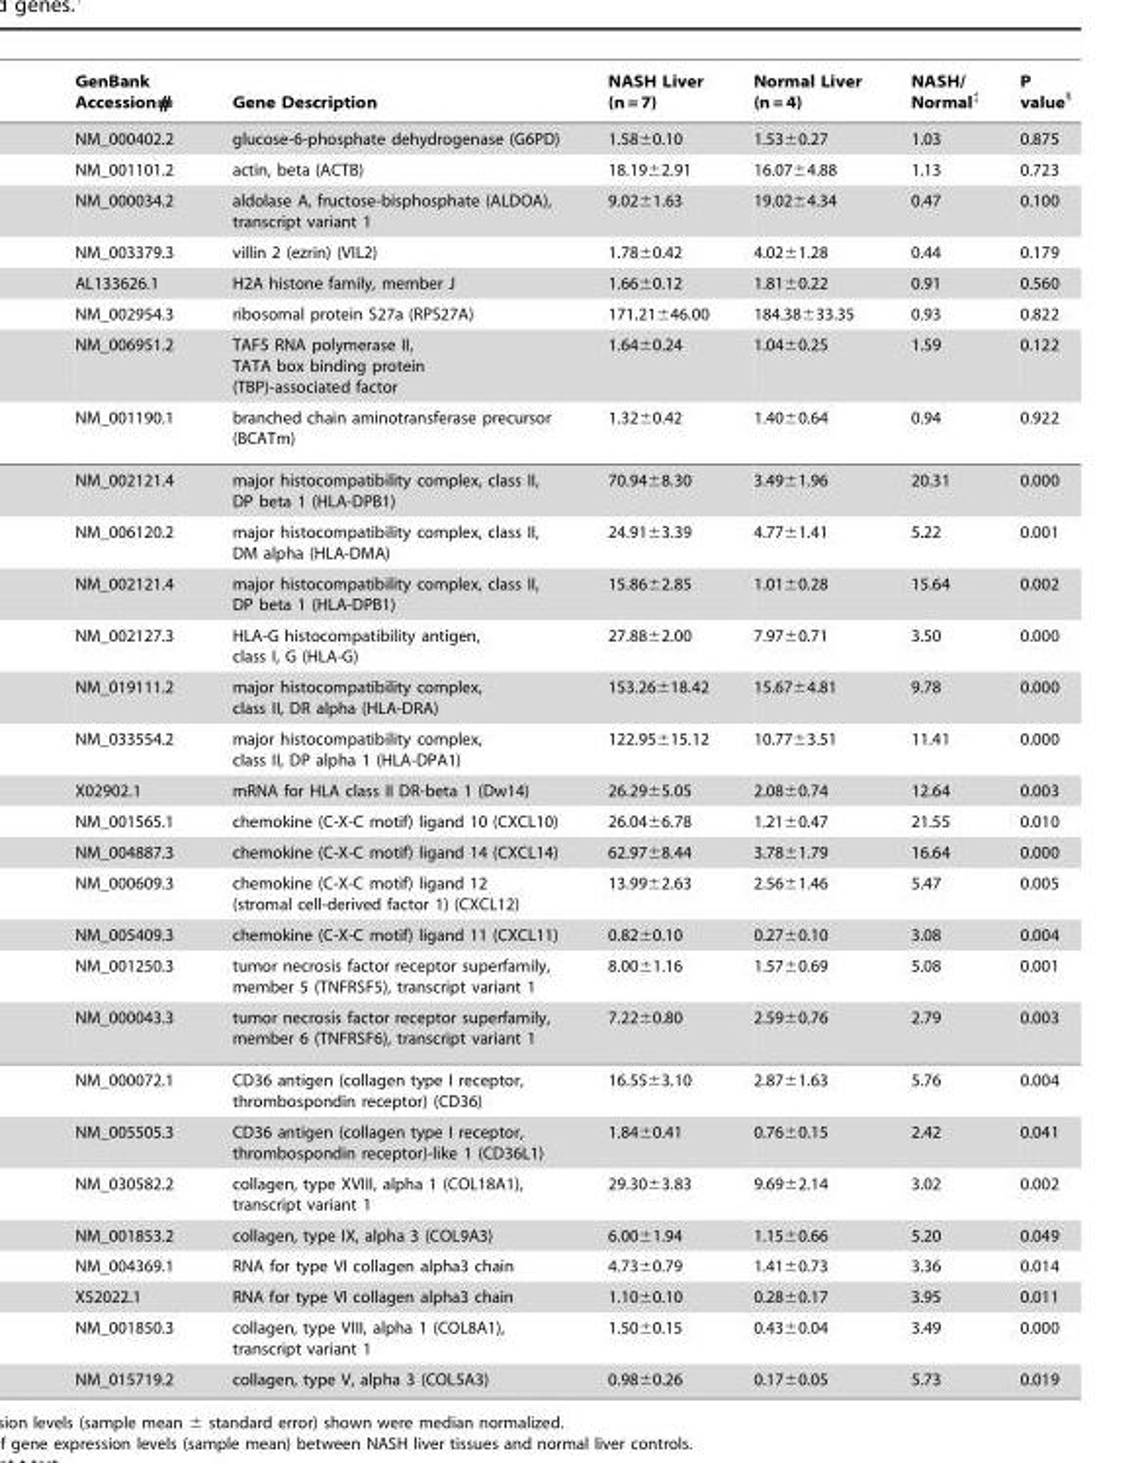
<table><thead><tr><td>GenBank Accession#</td><td>Gene Description</td><td>NASH Liver (n = 7)</td><td>Normal Liver (n = 4)</td><td>NASH/ Normal‡</td><td>P value§</td></tr></thead><tbody><tr><td>NM_000402.2</td><td>glucose-6-phosphate dehydrogenase (G6PD)</td><td>1.58±0.10</td><td>1.53±0.27</td><td>1.03</td><td>0.875</td></tr><tr><td>NM_001101.2</td><td>actin, beta (ACTB)</td><td>18.19±2.91</td><td>16.07±4.88</td><td>1.13</td><td>0.723</td></tr><tr><td>NM_000034.2</td><td>aldolase A, fructose-bisphosphate (ALDOA), transcript variant 1</td><td>9.02±1.63</td><td>19.02±4.34</td><td>0.47</td><td>0.100</td></tr><tr><td>NM_003379.3</td><td>villin 2 (ezrin) (VIL2)</td><td>1.78±0.42</td><td>4.02±1.28</td><td>0.44</td><td>0.179</td></tr><tr><td>AL133626.1</td><td>H2A histone family, member J</td><td>1.66±0.12</td><td>1.81±0.22</td><td>0.91</td><td>0.560</td></tr><tr><td>NM_002954.3</td><td>ribosomal protein S27a (RPS27A)</td><td>171.21±46.00</td><td>184.38±33.35</td><td>0.93</td><td>0.822</td></tr><tr><td>NM_006951.2</td><td>TAF5 RNA polymerase II, TATA box binding protein (TBP)-associated factor</td><td>1.64±0.24</td><td>1.04±0.25</td><td>1.59</td><td>0.122</td></tr><tr><td>NM_001190.1</td><td>branched chain aminotransferase precursor (BCATm)</td><td>1.32±0.42</td><td>1.40±0.64</td><td>0.94</td><td>0.922</td></tr><tr><td>NM_002121.4</td><td>major histocompatibility complex, class II, DP beta 1 (HLA-DPB1)</td><td>70.94±8.30</td><td>3.49±1.96</td><td>20.31</td><td>0.000</td></tr><tr><td>NM_006120.2</td><td>major histocompatibility complex, class II, DM alpha (HLA-DMA)</td><td>24.91±3.39</td><td>4.77±1.41</td><td>5.22</td><td>0.001</td></tr><tr><td>NM_002121.4</td><td>major histocompatibility complex, class II, DP beta 1 (HLA-DPB1)</td><td>15.86±2.85</td><td>1.01±0.28</td><td>15.64</td><td>0.002</td></tr><tr><td>NM_002127.3</td><td>HLA-G histocompatibility antigen, class I, G (HLA-G)</td><td>27.88±2.00</td><td>7.97±0.71</td><td>3.50</td><td>0.000</td></tr><tr><td>NM_019111.2</td><td>major histocompatibility complex, class II, DR alpha (HLA-DRA)</td><td>153.26±18.42</td><td>15.67±4.81</td><td>9.78</td><td>0.000</td></tr><tr><td>NM_033554.2</td><td>major histocompatibility complex, class II, DP alpha 1 (HLA-DPA1)</td><td>122.95±15.12</td><td>10.77±3.51</td><td>11.41</td><td>0.000</td></tr><tr><td>X02902.1</td><td>mRNA for HLA class II DR-beta 1 (Dw14)</td><td>26.29±5.05</td><td>2.08±0.74</td><td>12.64</td><td>0.003</td></tr><tr><td>NM_001565.1</td><td>chemokine (C-X-C motif) ligand 10 (CXCL10)</td><td>26.04±6.78</td><td>1.21±0.47</td><td>21.55</td><td>0.010</td></tr><tr><td>NM_004887.3</td><td>chemokine (C-X-C motif) ligand 14 (CXCL14)</td><td>62.97±8.44</td><td>3.78±1.79</td><td>16.64</td><td>0.000</td></tr><tr><td>NM_000609.3</td><td>chemokine (C-X-C motif) ligand 12 (stromal cell-derived factor 1) (CXCL12)</td><td>13.99±2.63</td><td>2.56±1.46</td><td>5.47</td><td>0.005</td></tr><tr><td>NM_005409.3</td><td>chemokine (C-X-C motif) ligand 11 (CXCL11)</td><td>0.82±0.10</td><td>0.27±0.10</td><td>3.08</td><td>0.004</td></tr><tr><td>NM_001250.3</td><td>tumor necrosis factor receptor superfamily, member 5 (TNFRSF5), transcript variant 1</td><td>8.00±1.16</td><td>1.57±0.69</td><td>5.08</td><td>0.001</td></tr><tr><td>NM_000043.3</td><td>tumor necrosis factor receptor superfamily, member 6 (TNFRSF6), transcript variant 1</td><td>7.22±0.80</td><td>2.59±0.76</td><td>2.79</td><td>0.003</td></tr><tr><td>NM_000072.1</td><td>CD36 antigen (collagen type I receptor, thrombospondin receptor) (CD36)</td><td>16.55±3.10</td><td>2.87±1.63</td><td>5.76</td><td>0.004</td></tr><tr><td>NM_005505.3</td><td>CD36 antigen (collagen type I receptor, thrombospondin receptor)-like 1 (CD36L1)</td><td>1.84±0.41</td><td>0.76±0.15</td><td>2.42</td><td>0.041</td></tr><tr><td>NM_030582.2</td><td>collagen, type XVIII, alpha 1 (COL18A1), transcript variant 1</td><td>29.30±3.83</td><td>9.69±2.14</td><td>3.02</td><td>0.002</td></tr><tr><td>NM_001853.2</td><td>collagen, type IX, alpha 3 (COL9A3)</td><td>6.00±1.94</td><td>1.15±0.66</td><td>5.20</td><td>0.049</td></tr><tr><td>NM_004369.1</td><td>RNA for type VI collagen alpha3 chain</td><td>4.73±0.79</td><td>1.41±0.73</td><td>3.36</td><td>0.014</td></tr><tr><td>X52022.1</td><td>RNA for type VI collagen alpha3 chain</td><td>1.10±0.10</td><td>0.28±0.17</td><td>3.95</td><td>0.011</td></tr><tr><td>NM_001850.3</td><td>collagen, type VIII, alpha 1 (COL8A1), transcript variant 1</td><td>1.50±0.15</td><td>0.43±0.04</td><td>3.49</td><td>0.000</td></tr><tr><td>NM_015719.2</td><td>collagen, type V, alpha 3 (COL5A3)</td><td>0.98±0.26</td><td>0.17±0.05</td><td>5.73</td><td>0.019</td></tr></tbody></table>